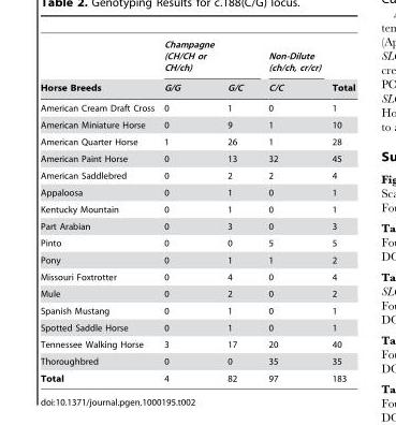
<table><thead><tr><td rowspan="2">Horse Breeds</td><td colspan="2">Champagne (CH/CH or CH/ch)</td><td rowspan="2">Non-Dilute (ch/ch, cr/cr) C/C</td><td rowspan="2">Total</td></tr><tr><td>G/G</td><td>G/C</td></tr></thead><tbody><tr><td>American Cream Draft Cross</td><td>0</td><td>1</td><td>0</td><td>1</td></tr><tr><td>American Miniature Horse</td><td>0</td><td>9</td><td>1</td><td>10</td></tr><tr><td>American Quarter Horse</td><td>1</td><td>26</td><td>1</td><td>28</td></tr><tr><td>American Paint Horse</td><td>0</td><td>13</td><td>32</td><td>45</td></tr><tr><td>American Saddlebred</td><td>0</td><td>2</td><td>2</td><td>4</td></tr><tr><td>Appaloosa</td><td>0</td><td>1</td><td>0</td><td>1</td></tr><tr><td>Kentucky Mountain</td><td>0</td><td>1</td><td>0</td><td>1</td></tr><tr><td>Part Arabian</td><td>0</td><td>3</td><td>0</td><td>3</td></tr><tr><td>Pinto</td><td>0</td><td>0</td><td>5</td><td>5</td></tr><tr><td>Pony</td><td>0</td><td>1</td><td>1</td><td>2</td></tr><tr><td>Missouri Foxtrotter</td><td>0</td><td>4</td><td>0</td><td>4</td></tr><tr><td>Mule</td><td>0</td><td>2</td><td>0</td><td>2</td></tr><tr><td>Spanish Mustang</td><td>0</td><td>1</td><td>0</td><td>1</td></tr><tr><td>Spotted Saddle Horse</td><td>0</td><td>1</td><td>0</td><td>1</td></tr><tr><td>Tennessee Walking Horse</td><td>3</td><td>17</td><td>20</td><td>40</td></tr><tr><td>Thoroughbred</td><td>0</td><td>0</td><td>35</td><td>35</td></tr><tr><td>Total</td><td>4</td><td>82</td><td>97</td><td>183</td></tr></tbody></table>